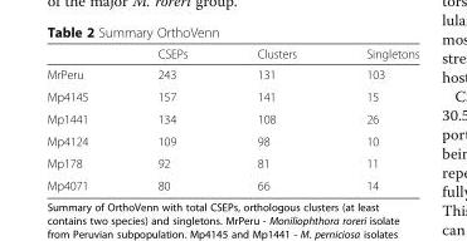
<table><thead><tr><td></td><td>CSEPs</td><td>Clusters</td><td>Singletons</td></tr></thead><tbody><tr><td>MrPeru</td><td>243</td><td>131</td><td>103</td></tr><tr><td>Mp4145</td><td>157</td><td>141</td><td>15</td></tr><tr><td>Mp1441</td><td>134</td><td>108</td><td>26</td></tr><tr><td>Mp4124</td><td>109</td><td>98</td><td>10</td></tr><tr><td>Mp178</td><td>92</td><td>81</td><td>11</td></tr><tr><td>Mp4071</td><td>80</td><td>66</td><td>14</td></tr></tbody></table>